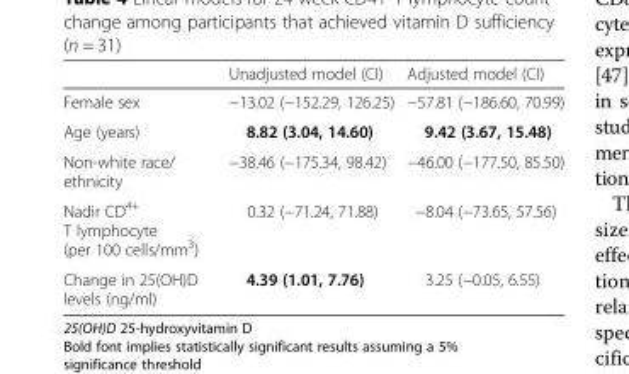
<table><thead><tr><td></td><td>Unadjusted model (CI)</td><td>Adjusted model (CI)</td></tr></thead><tbody><tr><td>Female sex</td><td>−13.02 (−152.29, 126.25)</td><td>−57.81 (−186.60, 70.99)</td></tr><tr><td>Age (years)</td><td>8.82 (3.04, 14.60)</td><td>9.42 (3.67, 15.48)</td></tr><tr><td>Non-white race/ ethnicity</td><td>−38.46 (−175.34, 98.42)</td><td>−46.00 (−177.50, 85.50)</td></tr><tr><td>Nadir CD<sup>4+</sup> T lymphocyte (per 100 cells/mm<sup>3</sup>)</td><td>0.32 (−71.24, 71.88)</td><td>−8.04 (−73.65, 57.56)</td></tr><tr><td>Change in 25(OH)D levels (ng/ml)</td><td>4.39 (1.01, 7.76)</td><td>3.25 (−0.05, 6.55)</td></tr></tbody></table>